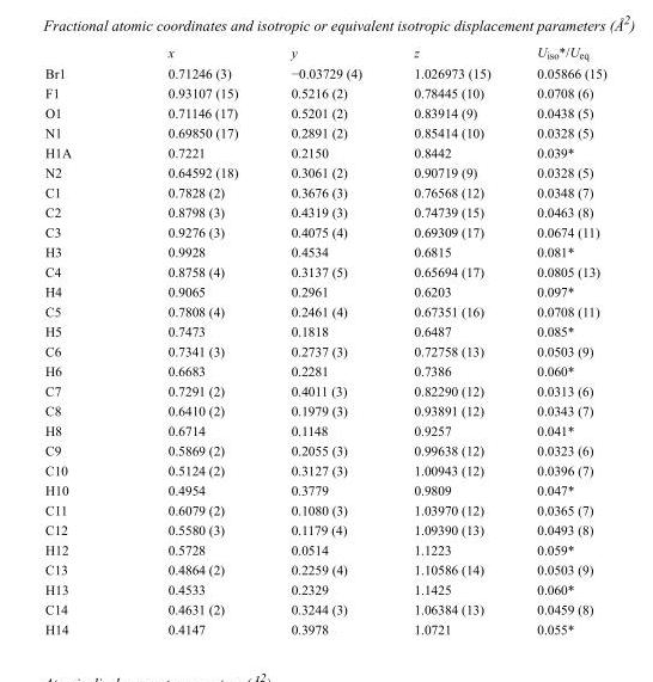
<table><thead><tr><td></td><td>x</td><td>y</td><td>z</td><td>U<sub>iso</sub>*/U<sub>eq</sub></td></tr></thead><tbody><tr><td>Br1</td><td>0.71246 (3)</td><td>−0.03729 (4)</td><td>1.026973 (15)</td><td>0.05866 (15)</td></tr><tr><td>F1</td><td>0.93107 (15)</td><td>0.5216 (2)</td><td>0.78445 (10)</td><td>0.0708 (6)</td></tr><tr><td>O1</td><td>0.71146 (17)</td><td>0.5201 (2)</td><td>0.83914 (9)</td><td>0.0438 (5)</td></tr><tr><td>N1</td><td>0.69850 (17)</td><td>0.2891 (2)</td><td>0.85414 (10)</td><td>0.0328 (5)</td></tr><tr><td>H1A</td><td>0.7221</td><td>0.2150</td><td>0.8442</td><td>0.039*</td></tr><tr><td>N2</td><td>0.64592 (18)</td><td>0.3061 (2)</td><td>0.90719 (9)</td><td>0.0328 (5)</td></tr><tr><td>C1</td><td>0.7828 (2)</td><td>0.3676 (3)</td><td>0.76568 (12)</td><td>0.0348 (7)</td></tr><tr><td>C2</td><td>0.8798 (3)</td><td>0.4319 (3)</td><td>0.74739 (15)</td><td>0.0463 (8)</td></tr><tr><td>C3</td><td>0.9276 (3)</td><td>0.4075 (4)</td><td>0.69309 (17)</td><td>0.0674 (11)</td></tr><tr><td>H3</td><td>0.9928</td><td>0.4534</td><td>0.6815</td><td>0.081*</td></tr><tr><td>C4</td><td>0.8758 (4)</td><td>0.3137 (5)</td><td>0.65694 (17)</td><td>0.0805 (13)</td></tr><tr><td>H4</td><td>0.9065</td><td>0.2961</td><td>0.6203</td><td>0.097*</td></tr><tr><td>C5</td><td>0.7808 (4)</td><td>0.2461 (4)</td><td>0.67351 (16)</td><td>0.0708 (11)</td></tr><tr><td>H5</td><td>0.7473</td><td>0.1818</td><td>0.6487</td><td>0.085*</td></tr><tr><td>C6</td><td>0.7341 (3)</td><td>0.2737 (3)</td><td>0.72758 (13)</td><td>0.0503 (9)</td></tr><tr><td>H6</td><td>0.6683</td><td>0.2281</td><td>0.7386</td><td>0.060*</td></tr><tr><td>C7</td><td>0.7291 (2)</td><td>0.4011 (3)</td><td>0.82290 (12)</td><td>0.0313 (6)</td></tr><tr><td>C8</td><td>0.6410 (2)</td><td>0.1979 (3)</td><td>0.93891 (12)</td><td>0.0343 (7)</td></tr><tr><td>H8</td><td>0.6714</td><td>0.1148</td><td>0.9257</td><td>0.041*</td></tr><tr><td>C9</td><td>0.5869 (2)</td><td>0.2055 (3)</td><td>0.99638 (12)</td><td>0.0323 (6)</td></tr><tr><td>C10</td><td>0.5124 (2)</td><td>0.3127 (3)</td><td>1.00943 (12)</td><td>0.0396 (7)</td></tr><tr><td>H10</td><td>0.4954</td><td>0.3779</td><td>0.9809</td><td>0.047*</td></tr><tr><td>C11</td><td>0.6079 (2)</td><td>0.1080 (3)</td><td>1.03970 (12)</td><td>0.0365 (7)</td></tr><tr><td>C12</td><td>0.5580 (3)</td><td>0.1179 (4)</td><td>1.09390 (13)</td><td>0.0493 (8)</td></tr><tr><td>H12</td><td>0.5728</td><td>0.0514</td><td>1.1223</td><td>0.059*</td></tr><tr><td>C13</td><td>0.4864 (2)</td><td>0.2259 (4)</td><td>1.10586 (14)</td><td>0.0503 (9)</td></tr><tr><td>H13</td><td>0.4533</td><td>0.2329</td><td>1.1425</td><td>0.060*</td></tr><tr><td>C14</td><td>0.4631 (2)</td><td>0.3244 (3)</td><td>1.06384 (13)</td><td>0.0459 (8)</td></tr><tr><td>H14</td><td>0.4147</td><td>0.3978</td><td>1.0721</td><td>0.055*</td></tr></tbody></table>